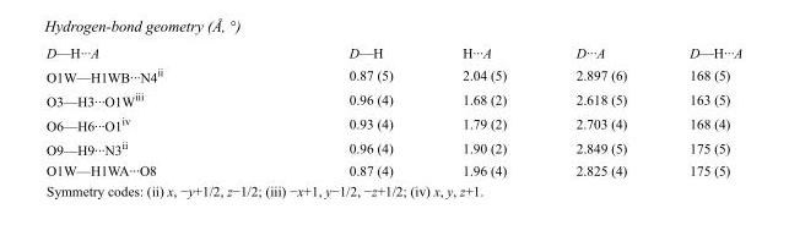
<table><tbody><tr><td>D—H···A</td><td>D—H</td><td>H···A</td><td>D···A</td><td>D—H···A</td></tr><tr><td>O1W—H1WB···N4<sup>ii</sup></td><td>0.87 (5)</td><td>2.04 (5)</td><td>2.897 (6)</td><td>168 (5)</td></tr><tr><td>O3—H3···O1W<sup>iii</sup></td><td>0.96 (4)</td><td>1.68 (2)</td><td>2.618 (5)</td><td>163 (5)</td></tr><tr><td>O6—H6···O1<sup>iv</sup></td><td>0.93 (4)</td><td>1.79 (2)</td><td>2.703 (4)</td><td>168 (4)</td></tr><tr><td>O9—H9···N3<sup>ii</sup></td><td>0.96 (4)</td><td>1.90 (2)</td><td>2.849 (5)</td><td>175 (5)</td></tr><tr><td>O1W—H1WA···O8</td><td>0.87 (4)</td><td>1.96 (4)</td><td>2.825 (4)</td><td>175 (5)</td></tr></tbody></table>